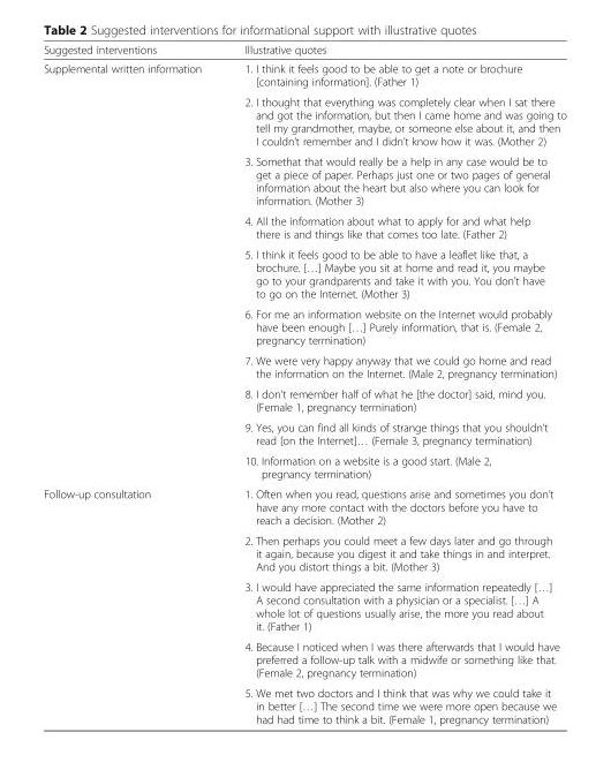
<table><thead><tr><td>Suggested interventions</td><td>Illustrative quotes</td></tr></thead><tbody><tr><td rowspan="10">Supplemental written information</td><td>1. I think it feels good to be able to get a note or brochure [containing information]. (Father 1)</td></tr><tr><td>2. I thought that everything was completely clear when I sat there and got the information, but then I came home and was going to tell my grandmother, maybe, or someone else about it, and then I couldn’t remember and I didn’t know how it was. (Mother 2)</td></tr><tr><td>3. Somethat that would really be a help in any case would be to get a piece of paper. Perhaps just one or two pages of general information about the heart but also where you can look for information. (Mother 3)</td></tr><tr><td>4. All the information about what to apply for and what help there is and things like that comes too late. (Father 2)</td></tr><tr><td>5. I think it feels good to be able to have a leaflet like that, a brochure. […] Maybe you sit at home and read it, you maybe go to your grandparents and take it with you. You don’t have to go on the Internet. (Mother 3)</td></tr><tr><td>6. For me an information website on the Internet would probably have been enough […] Purely information, that is. (Female 2, pregnancy termination)</td></tr><tr><td>7. We were very happy anyway that we could go home and read the information on the Internet. (Male 2, pregnancy termination)</td></tr><tr><td>8. I don’t remember half of what he [the doctor] said, mind you. (Female 1, pregnancy termination)</td></tr><tr><td>9. Yes, you can find all kinds of strange things that you shouldn’t read [on the Internet]… (Female 3, pregnancy termination)</td></tr><tr><td>10. Information on a website is a good start. (Male 2, pregnancy termination)</td></tr><tr><td rowspan="5">Follow-up consultation</td><td>1. Often when you read, questions arise and sometimes you don’t have any more contact with the doctors before you have to reach a decision. (Mother 2)</td></tr><tr><td>2. Then perhaps you could meet a few days later and go through it again, because you digest it and take things in and interpret. And you distort things a bit. (Mother 3)</td></tr><tr><td>3. I would have appreciated the same information repeatedly […] A second consultation with a physician or a specialist. […] A whole lot of questions usually arise, the more you read about it. (Father 1)</td></tr><tr><td>4. Because I noticed when I was there afterwards that I would have preferred a follow-up talk with a midwife or something like that. (Female 2, pregnancy termination)</td></tr><tr><td>5. We met two doctors and I think that was why we could take it in better […] The second time we were more open because we had had time to think a bit. (Female 1, pregnancy termination)</td></tr></tbody></table>